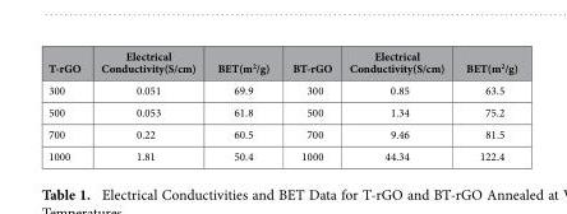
<table><thead><tr><td>T-rGO</td><td>Electrical Conductivity(S/cm)</td><td>BET(m<sup>2</sup>/g)</td><td>BT-rGO</td><td>Electrical Conductivity(S/cm)</td><td>BET(m<sup>2</sup>/g)</td></tr></thead><tbody><tr><td>300</td><td>0.051</td><td>69.9</td><td>300</td><td>0.85</td><td>63.5</td></tr><tr><td>500</td><td>0.053</td><td>61.8</td><td>500</td><td>1.34</td><td>75.2</td></tr><tr><td>700</td><td>0.22</td><td>60.5</td><td>700</td><td>9.46</td><td>81.5</td></tr><tr><td>1000</td><td>1.81</td><td>50.4</td><td>1000</td><td>44.34</td><td>122.4</td></tr></tbody></table>